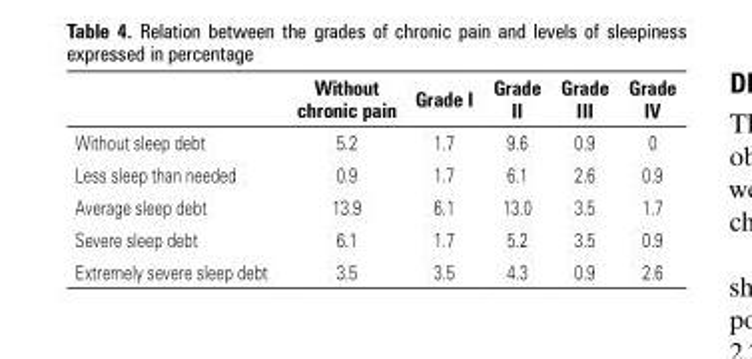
<table><thead><tr><td></td><td>Without chronic pain</td><td>Grade I</td><td>Grade II</td><td>Grade III</td><td>Grade IV</td></tr></thead><tbody><tr><td>Without sleep debt</td><td>5.2</td><td>1.7</td><td>9.6</td><td>0.9</td><td>0</td></tr><tr><td>Less sleep than needed</td><td>0.9</td><td>1.7</td><td>6.1</td><td>2.6</td><td>0.9</td></tr><tr><td>Average sleep debt</td><td>13.9</td><td>6.1</td><td>13.0</td><td>3.5</td><td>1.7</td></tr><tr><td>Severe sleep debt</td><td>6.1</td><td>1.7</td><td>5.2</td><td>3.5</td><td>0.9</td></tr><tr><td>Extremely severe sleep debt</td><td>3.5</td><td>3.5</td><td>4.3</td><td>0.9</td><td>2.6</td></tr></tbody></table>